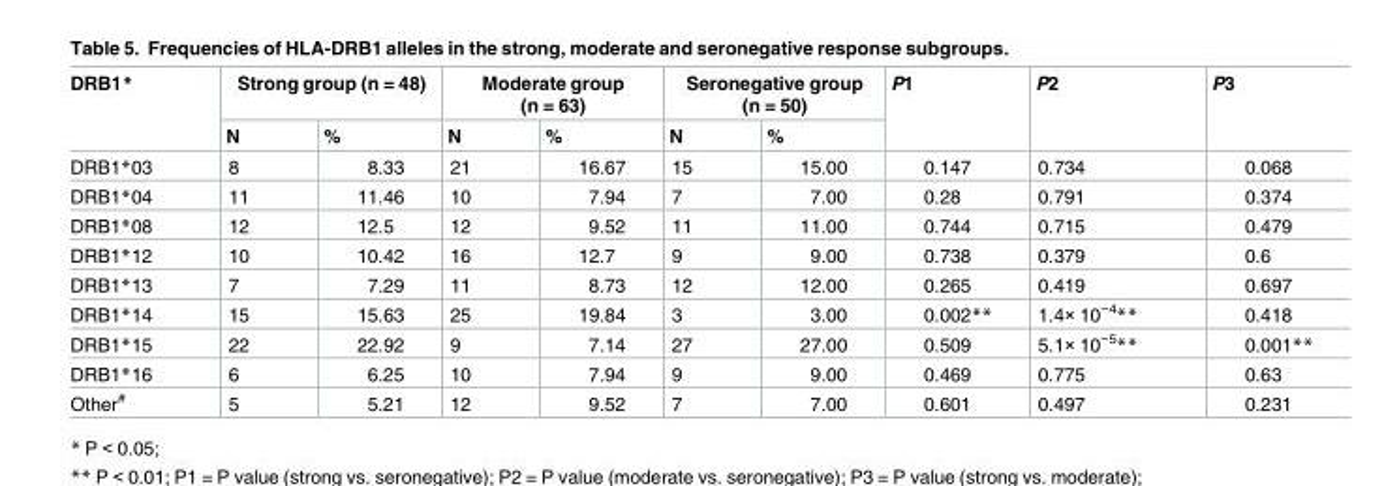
<table><thead><tr><td rowspan="2">DRB1*</td><td colspan="2">Strong group (n = 48)</td><td colspan="2">Moderate group (n = 63)</td><td colspan="2">Seronegative group (n = 50)</td><td rowspan="2">P1</td><td rowspan="2">P2</td><td rowspan="2">P3</td></tr><tr><td>N</td><td>%</td><td>N</td><td>%</td><td>N</td><td>%</td></tr></thead><tbody><tr><td>DRB1*03</td><td>8</td><td>8.33</td><td>21</td><td>16.67</td><td>15</td><td>15.00</td><td>0.147</td><td>0.734</td><td>0.068</td></tr><tr><td>DRB1*04</td><td>11</td><td>11.46</td><td>10</td><td>7.94</td><td>7</td><td>7.00</td><td>0.28</td><td>0.791</td><td>0.374</td></tr><tr><td>DRB1*08</td><td>12</td><td>12.5</td><td>12</td><td>9.52</td><td>11</td><td>11.00</td><td>0.744</td><td>0.715</td><td>0.479</td></tr><tr><td>DRB1*12</td><td>10</td><td>10.42</td><td>16</td><td>12.7</td><td>9</td><td>9.00</td><td>0.738</td><td>0.379</td><td>0.6</td></tr><tr><td>DRB1*13</td><td>7</td><td>7.29</td><td>11</td><td>8.73</td><td>12</td><td>12.00</td><td>0.265</td><td>0.419</td><td>0.697</td></tr><tr><td>DRB1*14</td><td>15</td><td>15.63</td><td>25</td><td>19.84</td><td>3</td><td>3.00</td><td>0.002**</td><td>1.4× 10<sup>−4</sup>**</td><td>0.418</td></tr><tr><td>DRB1*15</td><td>22</td><td>22.92</td><td>9</td><td>7.14</td><td>27</td><td>27.00</td><td>0.509</td><td>5.1× 10<sup>−5</sup>**</td><td>0.001**</td></tr><tr><td>DRB1*16</td><td>6</td><td>6.25</td><td>10</td><td>7.94</td><td>9</td><td>9.00</td><td>0.469</td><td>0.775</td><td>0.63</td></tr><tr><td>Other<sup>#</sup></td><td>5</td><td>5.21</td><td>12</td><td>9.52</td><td>7</td><td>7.00</td><td>0.601</td><td>0.497</td><td>0.231</td></tr></tbody></table>